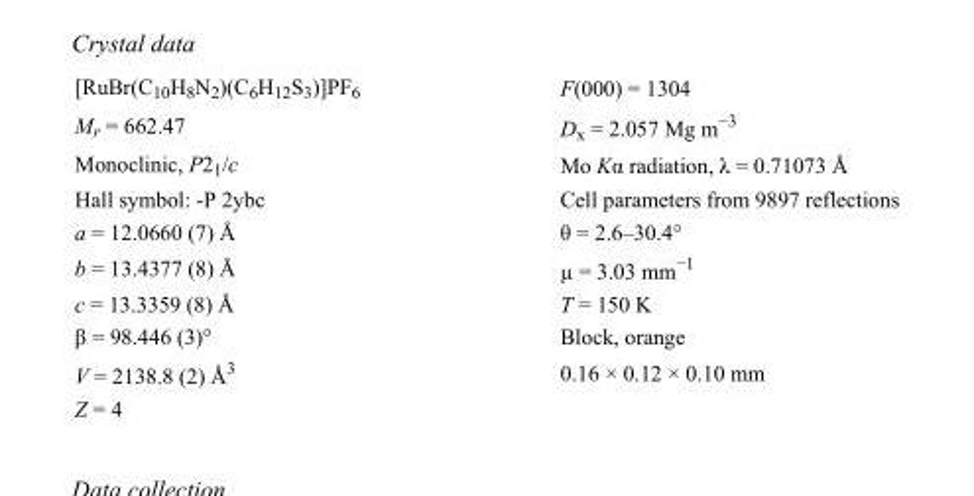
<table><tbody><tr><td>[RuBr(C<sub>10</sub>H<sub>8</sub>N<sub>2</sub>)(C<sub>6</sub>H<sub>12</sub>S<sub>3</sub>)]PF<sub>6</sub></td><td>F(000) = 1304</td></tr><tr><td>M<sub>r</sub> = 662.47</td><td>D<sub>x</sub> = 2.057 Mg m<sup>−3</sup></td></tr><tr><td>Monoclinic, P2<sub>1</sub>/c</td><td>Mo Kα radiation, λ = 0.71073 Å</td></tr><tr><td>Hall symbol: -P 2ybc</td><td>Cell parameters from 9897 reflections</td></tr><tr><td>a = 12.0660 (7) Å</td><td>θ = 2.6–30.4°</td></tr><tr><td>b = 13.4377 (8) Å</td><td>µ = 3.03 mm<sup>−1</sup></td></tr><tr><td>c = 13.3359 (8) Å</td><td>T = 150 K</td></tr><tr><td>β = 98.446 (3)°</td><td>Block, orange</td></tr><tr><td>V = 2138.8 (2) Å<sup>3</sup></td><td>0.16 × 0.12 × 0.10 mm</td></tr><tr><td>Z = 4</td><td></td></tr></tbody></table>